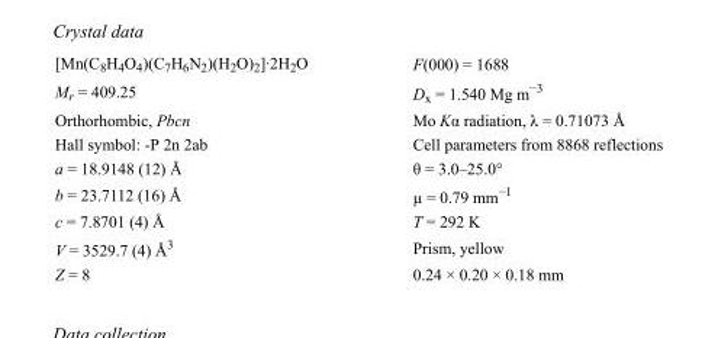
<table><tbody><tr><td>[Mn(C<sub>8</sub>H<sub>4</sub>O<sub>4</sub>)(C<sub>7</sub>H<sub>6</sub>N<sub>2</sub>)(H<sub>2</sub>O)<sub>2</sub>]·2H<sub>2</sub>O</td><td>F(000) = 1688</td></tr><tr><td>M<sub>r</sub> = 409.25</td><td>D<sub>x</sub> = 1.540 Mg m<sup>−3</sup></td></tr><tr><td>Orthorhombic, Pbcn</td><td>Mo Kα radiation, λ = 0.71073 Å</td></tr><tr><td>Hall symbol: -P 2n 2ab</td><td>Cell parameters from 8868 reflections</td></tr><tr><td>a = 18.9148 (12) Å</td><td>θ = 3.0–25.0°</td></tr><tr><td>b = 23.7112 (16) Å</td><td>µ = 0.79 mm<sup>−1</sup></td></tr><tr><td>c = 7.8701 (4) Å</td><td>T = 292 K</td></tr><tr><td>V = 3529.7 (4) Å<sup>3</sup></td><td>Prism, yellow</td></tr><tr><td>Z = 8</td><td>0.24 × 0.20 × 0.18 mm</td></tr></tbody></table>